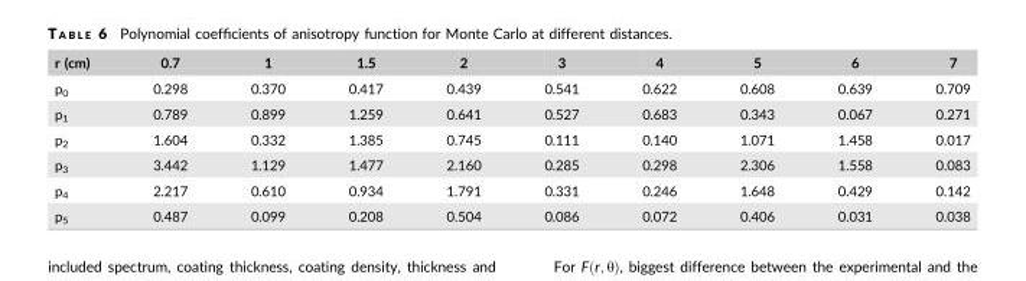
<table><thead><tr><td>r (cm)</td><td>0.7</td><td>1</td><td>1.5</td><td>2</td><td>3</td><td>4</td><td>5</td><td>6</td><td>7</td></tr></thead><tbody><tr><td>p<sub>0</sub></td><td>0.298</td><td>0.370</td><td>0.417</td><td>0.439</td><td>0.541</td><td>0.622</td><td>0.608</td><td>0.639</td><td>0.709</td></tr><tr><td>p<sub>1</sub></td><td>0.789</td><td>0.899</td><td>1.259</td><td>0.641</td><td>0.527</td><td>0.683</td><td>0.343</td><td>0.067</td><td>0.271</td></tr><tr><td>p<sub>2</sub></td><td>1.604</td><td>0.332</td><td>1.385</td><td>0.745</td><td>0.111</td><td>0.140</td><td>1.071</td><td>1.458</td><td>0.017</td></tr><tr><td>p<sub>3</sub></td><td>3.442</td><td>1.129</td><td>1.477</td><td>2.160</td><td>0.285</td><td>0.298</td><td>2.306</td><td>1.558</td><td>0.083</td></tr><tr><td>p<sub>4</sub></td><td>2.217</td><td>0.610</td><td>0.934</td><td>1.791</td><td>0.331</td><td>0.246</td><td>1.648</td><td>0.429</td><td>0.142</td></tr><tr><td>p<sub>5</sub></td><td>0.487</td><td>0.099</td><td>0.208</td><td>0.504</td><td>0.086</td><td>0.072</td><td>0.406</td><td>0.031</td><td>0.038</td></tr></tbody></table>